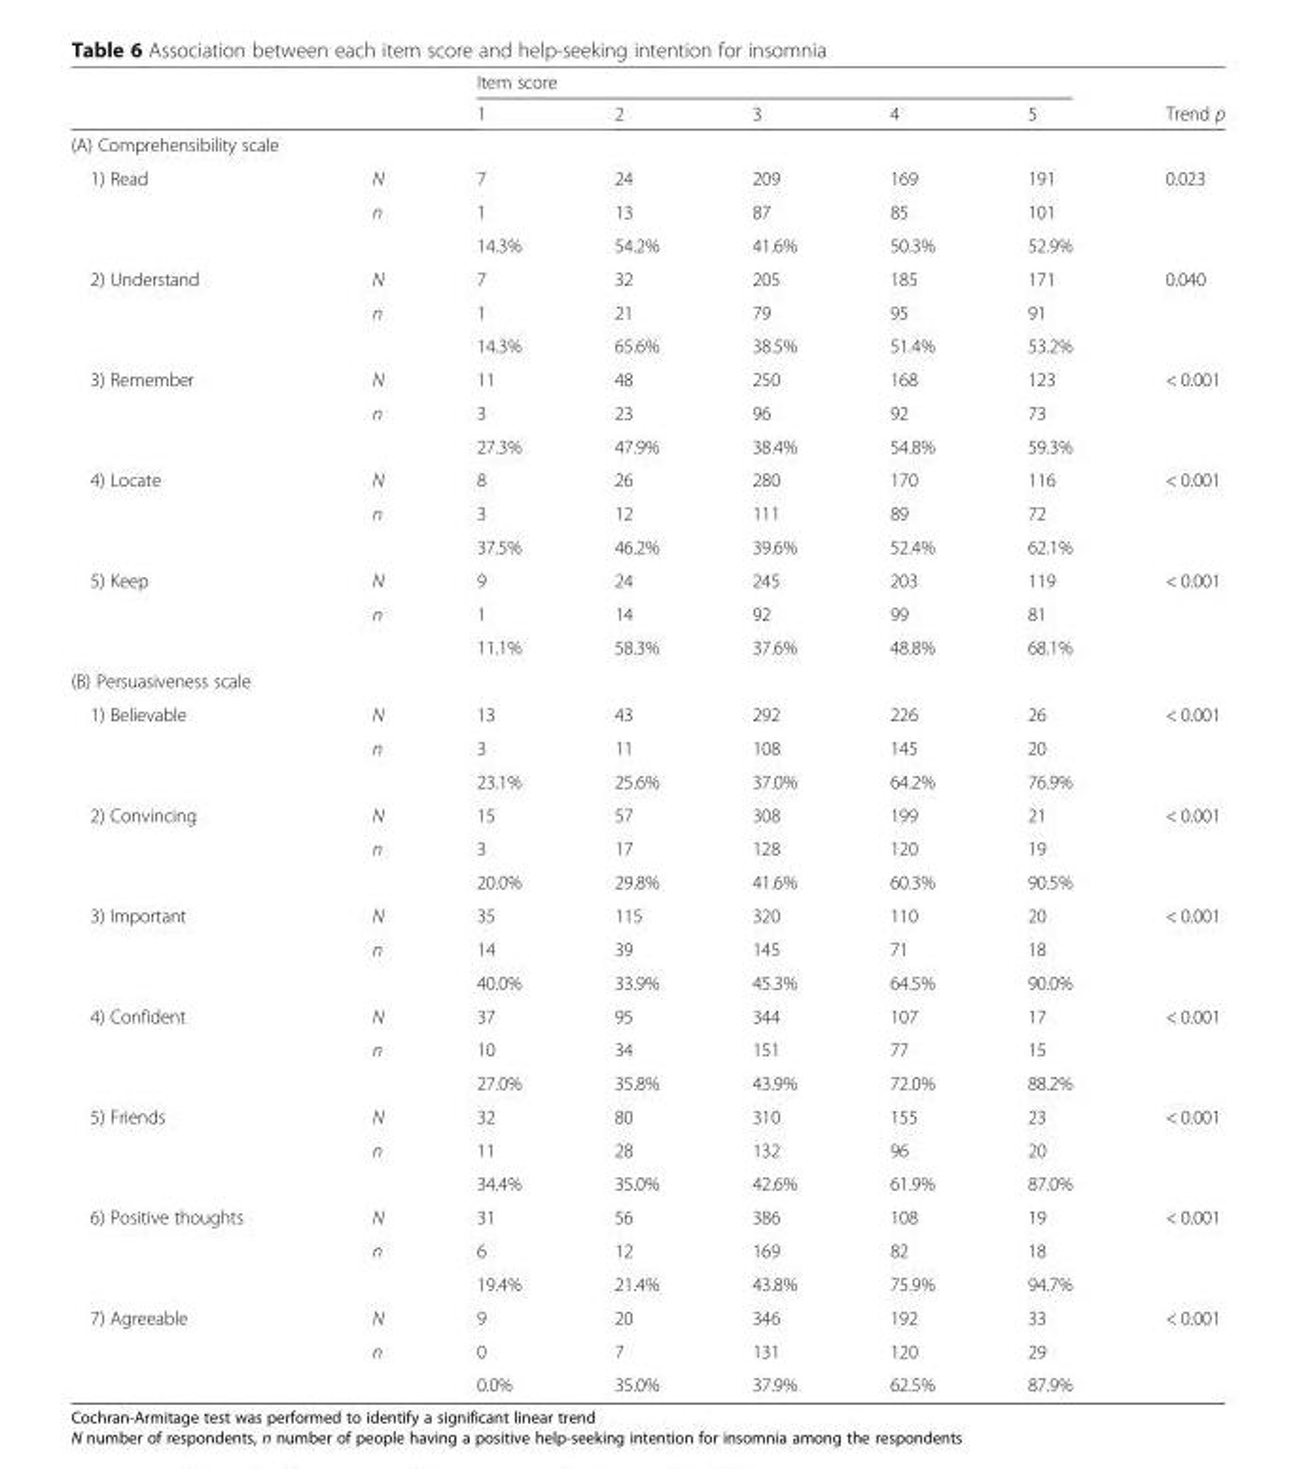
<table><thead><tr><td rowspan="2"></td><td rowspan="2"></td><td colspan="5">Item score</td><td rowspan="2">Trend p</td></tr><tr><td>1</td><td>2</td><td>3</td><td>4</td><td>5</td></tr></thead><tbody><tr><td colspan="8">(A) Comprehensibility scale</td></tr><tr><td rowspan="3">1) Read</td><td>N</td><td>7</td><td>24</td><td>209</td><td>169</td><td>191</td><td>0.023</td></tr><tr><td>n</td><td>1</td><td>13</td><td>87</td><td>85</td><td>101</td><td></td></tr><tr><td></td><td>14.3%</td><td>54.2%</td><td>41.6%</td><td>50.3%</td><td>52.9%</td><td></td></tr><tr><td rowspan="3">2) Understand</td><td>N</td><td>7</td><td>32</td><td>205</td><td>185</td><td>171</td><td>0.040</td></tr><tr><td>n</td><td>1</td><td>21</td><td>79</td><td>95</td><td>91</td><td></td></tr><tr><td></td><td>14.3%</td><td>65.6%</td><td>38.5%</td><td>51.4%</td><td>53.2%</td><td></td></tr><tr><td rowspan="3">3) Remember</td><td>N</td><td>11</td><td>48</td><td>250</td><td>168</td><td>123</td><td>&lt; 0.001</td></tr><tr><td>n</td><td>3</td><td>23</td><td>96</td><td>92</td><td>73</td><td></td></tr><tr><td></td><td>27.3%</td><td>47.9%</td><td>38.4%</td><td>54.8%</td><td>59.3%</td><td></td></tr><tr><td rowspan="3">4) Locate</td><td>N</td><td>8</td><td>26</td><td>280</td><td>170</td><td>116</td><td>&lt; 0.001</td></tr><tr><td>n</td><td>3</td><td>12</td><td>111</td><td>89</td><td>72</td><td></td></tr><tr><td></td><td>37.5%</td><td>46.2%</td><td>39.6%</td><td>52.4%</td><td>62.1%</td><td></td></tr><tr><td rowspan="3">5) Keep</td><td>N</td><td>9</td><td>24</td><td>245</td><td>203</td><td>119</td><td>&lt; 0.001</td></tr><tr><td>n</td><td>1</td><td>14</td><td>92</td><td>99</td><td>81</td><td></td></tr><tr><td></td><td>11.1%</td><td>58.3%</td><td>37.6%</td><td>48.8%</td><td>68.1%</td><td></td></tr><tr><td colspan="8">(B) Persuasiveness scale</td></tr><tr><td rowspan="3">1) Believable</td><td>N</td><td>13</td><td>43</td><td>292</td><td>226</td><td>26</td><td>&lt; 0.001</td></tr><tr><td>n</td><td>3</td><td>11</td><td>108</td><td>145</td><td>20</td><td></td></tr><tr><td></td><td>23.1%</td><td>25.6%</td><td>37.0%</td><td>64.2%</td><td>76.9%</td><td></td></tr><tr><td rowspan="3">2) Convincing</td><td>N</td><td>15</td><td>57</td><td>308</td><td>199</td><td>21</td><td>&lt; 0.001</td></tr><tr><td>n</td><td>3</td><td>17</td><td>128</td><td>120</td><td>19</td><td></td></tr><tr><td></td><td>20.0%</td><td>29.8%</td><td>41.6%</td><td>60.3%</td><td>90.5%</td><td></td></tr><tr><td rowspan="3">3) Important</td><td>N</td><td>35</td><td>115</td><td>320</td><td>110</td><td>20</td><td>&lt; 0.001</td></tr><tr><td>n</td><td>14</td><td>39</td><td>145</td><td>71</td><td>18</td><td></td></tr><tr><td></td><td>40.0%</td><td>33.9%</td><td>45.3%</td><td>64.5%</td><td>90.0%</td><td></td></tr><tr><td rowspan="3">4) Confident</td><td>N</td><td>37</td><td>95</td><td>344</td><td>107</td><td>17</td><td>&lt; 0.001</td></tr><tr><td>n</td><td>10</td><td>34</td><td>151</td><td>77</td><td>15</td><td></td></tr><tr><td></td><td>27.0%</td><td>35.8%</td><td>43.9%</td><td>72.0%</td><td>88.2%</td><td></td></tr><tr><td rowspan="3">5) Friends</td><td>N</td><td>32</td><td>80</td><td>310</td><td>155</td><td>23</td><td>&lt; 0.001</td></tr><tr><td>n</td><td>11</td><td>28</td><td>132</td><td>96</td><td>20</td><td></td></tr><tr><td></td><td>34.4%</td><td>35.0%</td><td>42.6%</td><td>61.9%</td><td>87.0%</td><td></td></tr><tr><td rowspan="3">6) Positive thoughts</td><td>N</td><td>31</td><td>56</td><td>386</td><td>108</td><td>19</td><td>&lt; 0.001</td></tr><tr><td>n</td><td>6</td><td>12</td><td>169</td><td>82</td><td>18</td><td></td></tr><tr><td></td><td>19.4%</td><td>21.4%</td><td>43.8%</td><td>75.9%</td><td>94.7%</td><td></td></tr><tr><td rowspan="3">7) Agreeable</td><td>N</td><td>9</td><td>20</td><td>346</td><td>192</td><td>33</td><td>&lt; 0.001</td></tr><tr><td>n</td><td>0</td><td>7</td><td>131</td><td>120</td><td>29</td><td></td></tr><tr><td></td><td>0.0%</td><td>35.0%</td><td>37.9%</td><td>62.5%</td><td>87.9%</td><td></td></tr></tbody></table>